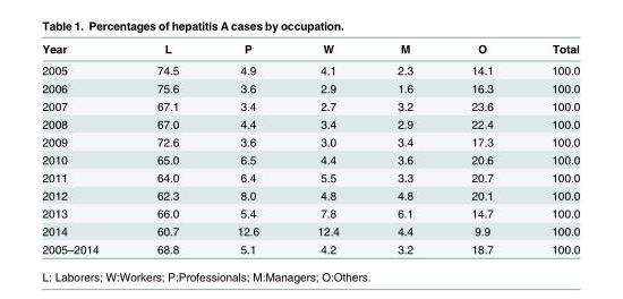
<table><thead><tr><td>Year</td><td>L</td><td>P</td><td>W</td><td>M</td><td>O</td><td>Total</td></tr></thead><tbody><tr><td>2005</td><td>74.5</td><td>4.9</td><td>4.1</td><td>2.3</td><td>14.1</td><td>100.0</td></tr><tr><td>2006</td><td>75.6</td><td>3.6</td><td>2.9</td><td>1.6</td><td>16.3</td><td>100.0</td></tr><tr><td>2007</td><td>67.1</td><td>3.4</td><td>2.7</td><td>3.2</td><td>23.6</td><td>100.0</td></tr><tr><td>2008</td><td>67.0</td><td>4.4</td><td>3.4</td><td>2.9</td><td>22.4</td><td>100.0</td></tr><tr><td>2009</td><td>72.6</td><td>3.6</td><td>3.0</td><td>3.4</td><td>17.3</td><td>100.0</td></tr><tr><td>2010</td><td>65.0</td><td>6.5</td><td>4.4</td><td>3.6</td><td>20.6</td><td>100.0</td></tr><tr><td>2011</td><td>64.0</td><td>6.4</td><td>5.5</td><td>3.3</td><td>20.7</td><td>100.0</td></tr><tr><td>2012</td><td>62.3</td><td>8.0</td><td>4.8</td><td>4.8</td><td>20.1</td><td>100.0</td></tr><tr><td>2013</td><td>66.0</td><td>5.4</td><td>7.8</td><td>6.1</td><td>14.7</td><td>100.0</td></tr><tr><td>2014</td><td>60.7</td><td>12.6</td><td>12.4</td><td>4.4</td><td>9.9</td><td>100.0</td></tr><tr><td>2005–2014</td><td>68.8</td><td>5.1</td><td>4.2</td><td>3.2</td><td>18.7</td><td>100.0</td></tr></tbody></table>